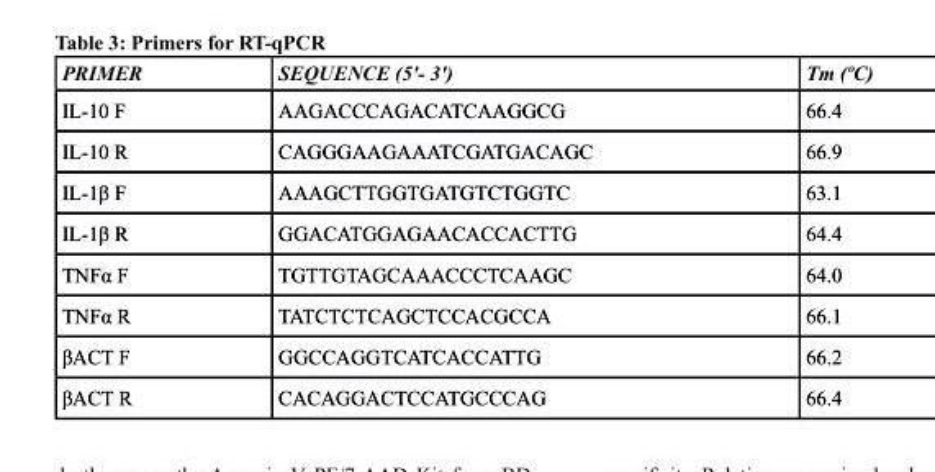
<table><thead><tr><td>PRIMER</td><td>SEQUENCE (5&#x27;- 3&#x27;)</td><td>Tm (ºC)</td></tr></thead><tbody><tr><td>IL-10 F</td><td>AAGACCCAGACATCAAGGCG</td><td>66.4</td></tr><tr><td>IL-10 R</td><td>CAGGGAAGAAATCGATGACAGC</td><td>66.9</td></tr><tr><td>IL-1β F</td><td>AAAGCTTGGTGATGTCTGGTC</td><td>63.1</td></tr><tr><td>IL-1β R</td><td>GGACATGGAGAACACCACTTG</td><td>64.4</td></tr><tr><td>TNFα F</td><td>TGTTGTAGCAAACCCTCAAGC</td><td>64.0</td></tr><tr><td>TNFα R</td><td>TATCTCTCAGCTCCACGCCA</td><td>66.1</td></tr><tr><td>βACT F</td><td>GGCCAGGTCATCACCATTG</td><td>66.2</td></tr><tr><td>βACT R</td><td>CACAGGACTCCATGCCCAG</td><td>66.4</td></tr></tbody></table>